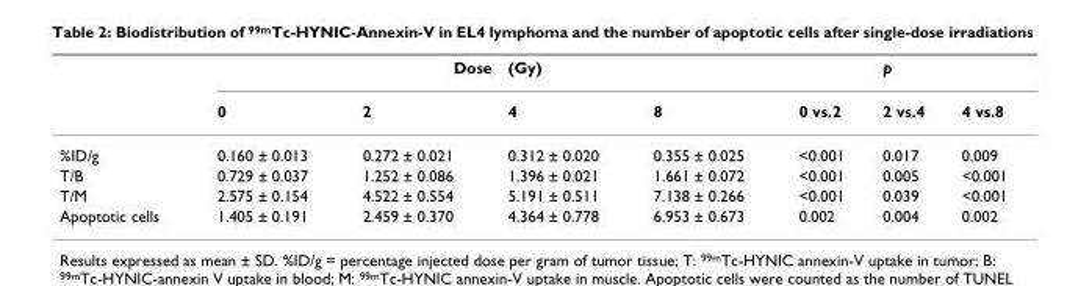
<table><thead><tr><td rowspan="2"></td><td rowspan="2">0</td><td rowspan="2">Dose 2</td><td rowspan="2">(Gy) 4</td><td rowspan="2">8</td><td rowspan="2">0 vs.2</td><td rowspan="2">p 2 vs.4</td><td rowspan="2">4 vs.8</td></tr><tr></tr></thead><tbody><tr><td>%ID/g</td><td>0.160 ± 0.013</td><td>0.272 ± 0.021</td><td>0.312 ± 0.020</td><td>0.355 ± 0.025</td><td>&lt;0.001</td><td>0.017</td><td>0.009</td></tr><tr><td>T/B</td><td>0.729 ± 0.037</td><td>1.252 ± 0.086</td><td>1.396 ± 0.021</td><td>1.661 ± 0.072</td><td>&lt;0.001</td><td>0.005</td><td>&lt;0.001</td></tr><tr><td>T/M</td><td>2.575 ± 0.154</td><td>4.522 ± 0.554</td><td>5.191 ± 0.511</td><td>7.138 ± 0.266</td><td>&lt;0.001</td><td>0.039</td><td>&lt;0.001</td></tr><tr><td>Apoptotic cells</td><td>1.405 ± 0.191</td><td>2.459 ± 0.370</td><td>4.364 ± 0.778</td><td>6.953 ± 0.673</td><td>0.002</td><td>0.004</td><td>0.002</td></tr></tbody></table>